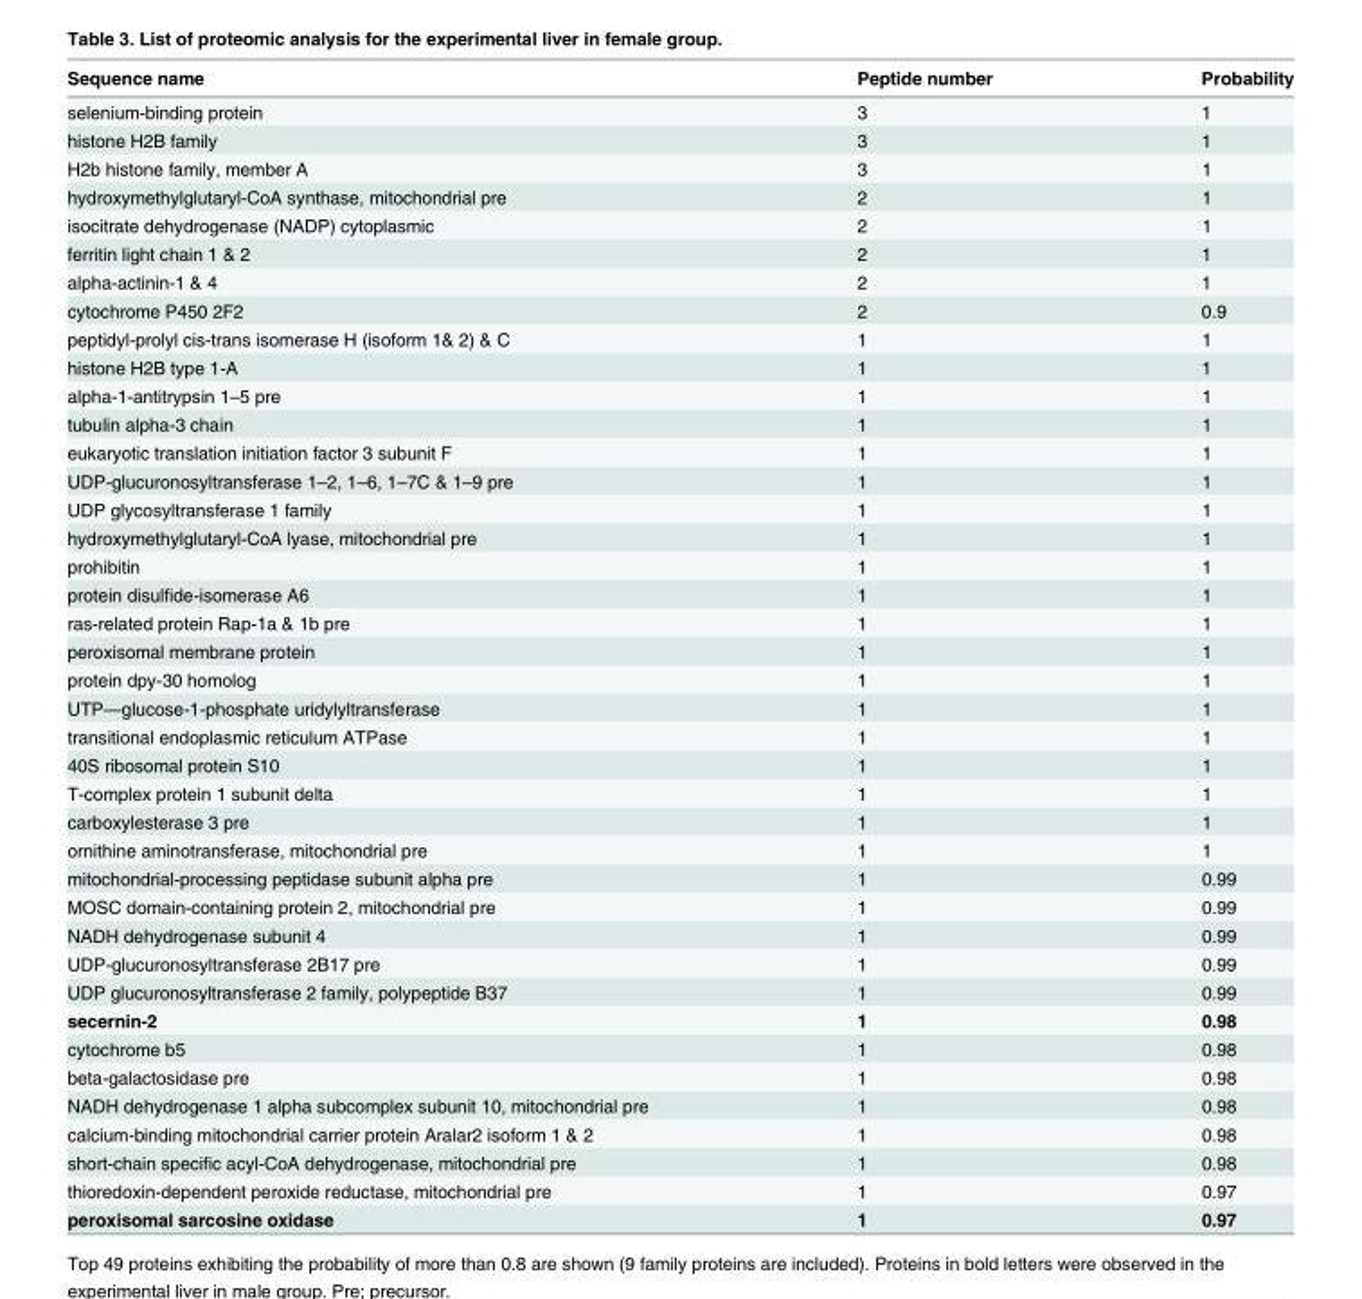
<table><thead><tr><td>Sequence name</td><td>Peptide number</td><td>Probability</td></tr></thead><tbody><tr><td>selenium-binding protein</td><td>3</td><td>1</td></tr><tr><td>histone H2B family</td><td>3</td><td>1</td></tr><tr><td>H2b histone family, member A</td><td>3</td><td>1</td></tr><tr><td>hydroxymethylglutaryl-CoA synthase, mitochondrial pre</td><td>2</td><td>1</td></tr><tr><td>isocitrate dehydrogenase (NADP) cytoplasmic</td><td>2</td><td>1</td></tr><tr><td>ferritin light chain 1 &amp; 2</td><td>2</td><td>1</td></tr><tr><td>alpha-actinin-1 &amp; 4</td><td>2</td><td>1</td></tr><tr><td>cytochrome P450 2F2</td><td>2</td><td>0.9</td></tr><tr><td>peptidyl-prolyl cis-trans isomerase H (isoform 1&amp; 2) &amp; C</td><td>1</td><td>1</td></tr><tr><td>histone H2B type 1-A</td><td>1</td><td>1</td></tr><tr><td>alpha-1-antitrypsin 1–5 pre</td><td>1</td><td>1</td></tr><tr><td>tubulin alpha-3 chain</td><td>1</td><td>1</td></tr><tr><td>eukaryotic translation initiation factor 3 subunit F</td><td>1</td><td>1</td></tr><tr><td>UDP-glucuronosyltransferase 1–2, 1–6, 1–7C &amp; 1–9 pre</td><td>1</td><td>1</td></tr><tr><td>UDP glycosyltransferase 1 family</td><td>1</td><td>1</td></tr><tr><td>hydroxymethylglutaryl-CoA lyase, mitochondrial pre</td><td>1</td><td>1</td></tr><tr><td>prohibitin</td><td>1</td><td>1</td></tr><tr><td>protein disulfide-isomerase A6</td><td>1</td><td>1</td></tr><tr><td>ras-related protein Rap-1a &amp; 1b pre</td><td>1</td><td>1</td></tr><tr><td>peroxisomal membrane protein</td><td>1</td><td>1</td></tr><tr><td>protein dpy-30 homolog</td><td>1</td><td>1</td></tr><tr><td>UTP—glucose-1-phosphate uridylyltransferase</td><td>1</td><td>1</td></tr><tr><td>transitional endoplasmic reticulum ATPase</td><td>1</td><td>1</td></tr><tr><td>40S ribosomal protein S10</td><td>1</td><td>1</td></tr><tr><td>T-complex protein 1 subunit delta</td><td>1</td><td>1</td></tr><tr><td>carboxylesterase 3 pre</td><td>1</td><td>1</td></tr><tr><td>ornithine aminotransferase, mitochondrial pre</td><td>1</td><td>1</td></tr><tr><td>mitochondrial-processing peptidase subunit alpha pre</td><td>1</td><td>0.99</td></tr><tr><td>MOSC domain-containing protein 2, mitochondrial pre</td><td>1</td><td>0.99</td></tr><tr><td>NADH dehydrogenase subunit 4</td><td>1</td><td>0.99</td></tr><tr><td>UDP-glucuronosyltransferase 2B17 pre</td><td>1</td><td>0.99</td></tr><tr><td>UDP glucuronosyltransferase 2 family, polypeptide B37</td><td>1</td><td>0.99</td></tr><tr><td>secernin-2</td><td>1</td><td>0.98</td></tr><tr><td>cytochrome b5</td><td>1</td><td>0.98</td></tr><tr><td>beta-galactosidase pre</td><td>1</td><td>0.98</td></tr><tr><td>NADH dehydrogenase 1 alpha subcomplex subunit 10, mitochondrial pre</td><td>1</td><td>0.98</td></tr><tr><td>calcium-binding mitochondrial carrier protein Aralar2 isoform 1 &amp; 2</td><td>1</td><td>0.98</td></tr><tr><td>short-chain specific acyl-CoA dehydrogenase, mitochondrial pre</td><td>1</td><td>0.98</td></tr><tr><td>thioredoxin-dependent peroxide reductase, mitochondrial pre</td><td>1</td><td>0.97</td></tr><tr><td>peroxisomal sarcosine oxidase</td><td>1</td><td>0.97</td></tr></tbody></table>